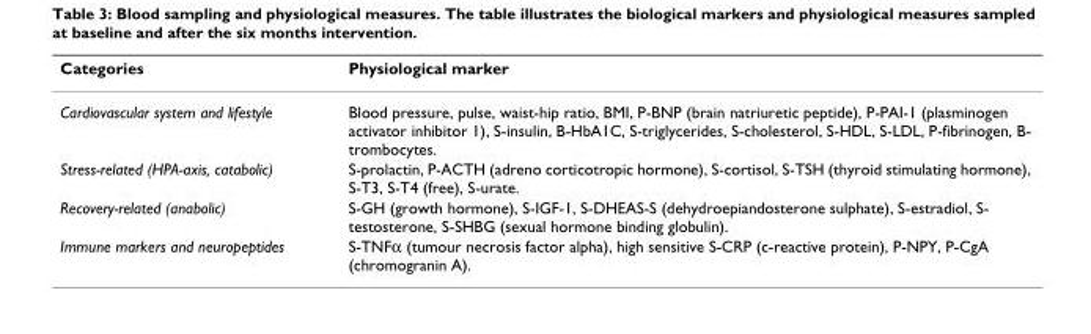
<table><thead><tr><td>Categories</td><td>Physiological marker</td></tr></thead><tbody><tr><td>Cardiovascular system and lifestyle</td><td>Blood pressure, pulse, waist-hip ratio, BMI, P-BNP (brain natriuretic peptide), P-PAI-1 (plasminogen activator inhibitor 1), S-insulin, B-HbA1C, S-triglycerides, S-cholesterol, S-HDL, S-LDL, P-fibrinogen, B- trombocytes.</td></tr><tr><td>Stress-related (HPA-axis, catabolic)</td><td>S-prolactin, P-ACTH (adreno corticotropic hormone), S-cortisol, S-TSH (thyroid stimulating hormone), S-T3, S-T4 (free), S-urate.</td></tr><tr><td>Recovery-related (anabolic)</td><td>S-GH (growth hormone), S-IGF-1, S-DHEAS-S (dehydroepiandosterone sulphate), S-estradiol, S- testosterone, S-SHBG (sexual hormone binding globulin).</td></tr><tr><td>Immune markers and neuropeptides</td><td>S-TNFα (tumour necrosis factor alpha), high sensitive S-CRP (c-reactive protein), P-NPY, P-CgA (chromogranin A).</td></tr></tbody></table>